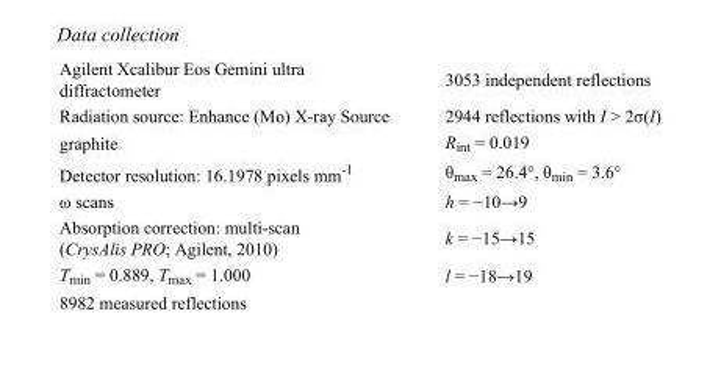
<table><tbody><tr><td>Agilent Xcalibur Eos Gemini ultra diffractometer</td><td>3053 independent reflections</td></tr><tr><td>Radiation source: Enhance (Mo) X-ray Source</td><td>2944 reflections with I &gt; 2σ(I)</td></tr><tr><td>graphite</td><td>R<sub>int</sub> = 0.019</td></tr><tr><td>Detector resolution: 16.1978 pixels mm<sup>-1</sup></td><td>θ<sub>max</sub> = 26.4°, θ<sub>min</sub> = 3.6°</td></tr><tr><td>ω scans</td><td>h = −10→9</td></tr><tr><td>Absorption correction: multi-scan (CrysAlis PRO; Agilent, 2010)</td><td>k = −15→15</td></tr><tr><td>T<sub>min</sub> = 0.889, T<sub>max</sub> = 1.000</td><td>l = −18→19</td></tr><tr><td>8982 measured reflections</td><td></td></tr></tbody></table>